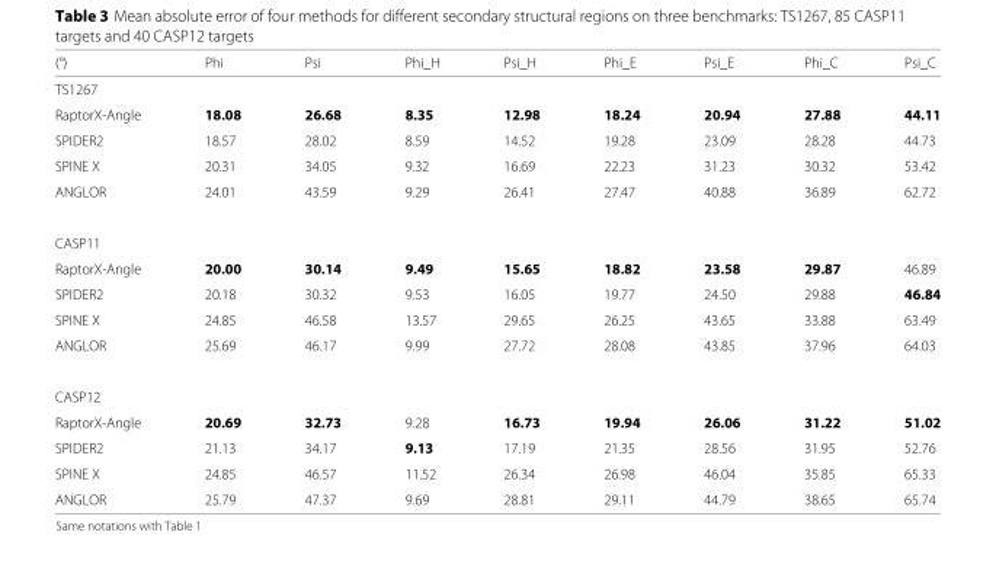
<table><thead><tr><td>(°)</td><td>Phi</td><td>Psi</td><td>Phi_H</td><td>Psi_H</td><td>Phi_E</td><td>Psi_E</td><td>Phi_C</td><td>Psi_C</td></tr></thead><tbody><tr><td colspan="9">TS1267</td></tr><tr><td>RaptorX-Angle</td><td>18.08</td><td>26.68</td><td>8.35</td><td>12.98</td><td>18.24</td><td>20.94</td><td>27.88</td><td>44.11</td></tr><tr><td>SPIDER2</td><td>18.57</td><td>28.02</td><td>8.59</td><td>14.52</td><td>19.28</td><td>23.09</td><td>28.28</td><td>44.73</td></tr><tr><td>SPINE X</td><td>20.31</td><td>34.05</td><td>9.32</td><td>16.69</td><td>22.23</td><td>31.23</td><td>30.32</td><td>53.42</td></tr><tr><td>ANGLOR</td><td>24.01</td><td>43.59</td><td>9.29</td><td>26.41</td><td>27.47</td><td>40.88</td><td>36.89</td><td>62.72</td></tr><tr><td colspan="9">CASP11</td></tr><tr><td>RaptorX-Angle</td><td>20.00</td><td>30.14</td><td>9.49</td><td>15.65</td><td>18.82</td><td>23.58</td><td>29.87</td><td>46.89</td></tr><tr><td>SPIDER2</td><td>20.18</td><td>30.32</td><td>9.53</td><td>16.05</td><td>19.77</td><td>24.50</td><td>29.88</td><td>46.84</td></tr><tr><td>SPINE X</td><td>24.85</td><td>46.58</td><td>13.57</td><td>29.65</td><td>26.25</td><td>43.65</td><td>33.88</td><td>63.49</td></tr><tr><td>ANGLOR</td><td>25.69</td><td>46.17</td><td>9.99</td><td>27.72</td><td>28.08</td><td>43.85</td><td>37.96</td><td>64.03</td></tr><tr><td colspan="9">CASP12</td></tr><tr><td>RaptorX-Angle</td><td>20.69</td><td>32.73</td><td>9.28</td><td>16.73</td><td>19.94</td><td>26.06</td><td>31.22</td><td>51.02</td></tr><tr><td>SPIDER2</td><td>21.13</td><td>34.17</td><td>9.13</td><td>17.19</td><td>21.35</td><td>28.56</td><td>31.95</td><td>52.76</td></tr><tr><td>SPINE X</td><td>24.85</td><td>46.57</td><td>11.52</td><td>26.34</td><td>26.98</td><td>46.04</td><td>35.85</td><td>65.33</td></tr><tr><td>ANGLOR</td><td>25.79</td><td>47.37</td><td>9.69</td><td>28.81</td><td>29.11</td><td>44.79</td><td>38.65</td><td>65.74</td></tr></tbody></table>